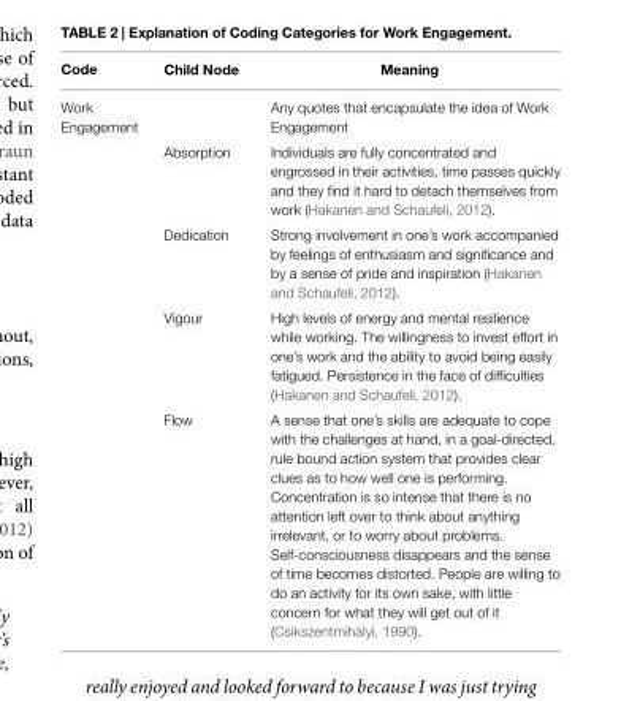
<table><thead><tr><td>Code</td><td>Child Node</td><td>Meaning</td></tr></thead><tbody><tr><td rowspan="5">Work Engagement</td><td></td><td>Any quotes that encapsulate the idea of Work Engagement</td></tr><tr><td>Absorption</td><td>Individuals are fully concentrated and engrossed in their activities, time passes quickly and they find it hard to detach themselves from work (Hakanen and Schaufeli, 2012).</td></tr><tr><td>Dedication</td><td>Strong involvement in one’s work accompanied by feelings of enthusiasm and significance and by a sense of pride and inspiration (Hakanen and Schaufeli, 2012).</td></tr><tr><td>Vigour</td><td>High levels of energy and mental resilience while working. The willingness to invest effort in one’s work and the ability to avoid being easily fatigued. Persistence in the face of difficulties (Hakanen and Schaufeli, 2012).</td></tr><tr><td>Flow</td><td>A sense that one’s skills are adequate to cope with the challenges at hand, in a goal-directed, rule bound action system that provides clear clues as to how well one is performing. Concentration is so intense that there is no attention left over to think about anything irrelevant, or to worry about problems. Self-consciousness disappears and the sense of time becomes distorted. People are willing to do an activity for its own sake, with little concern for what they will get out of it (Csikszentmihalyi, 1990).</td></tr></tbody></table>